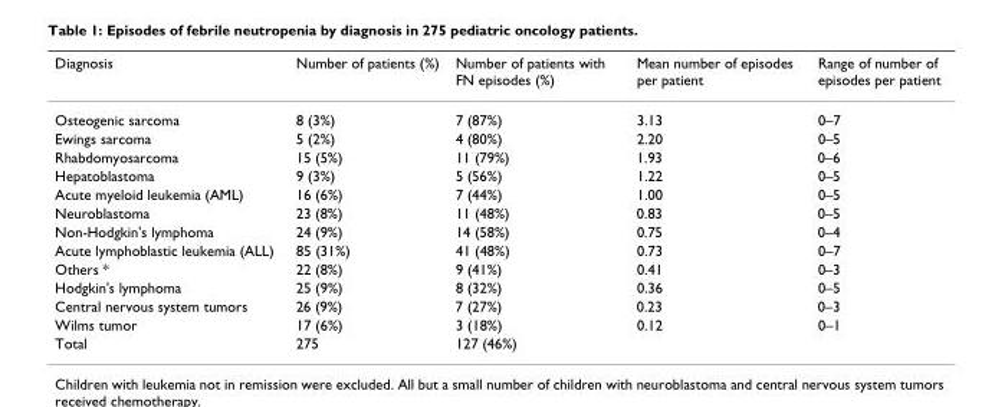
<table><thead><tr><td>Diagnosis</td><td>Number of patients (%)</td><td>Number of patients with FN episodes (%)</td><td>Mean number of episodes per patient</td><td>Range of number of episodes per patient</td></tr></thead><tbody><tr><td>Osteogenic sarcoma</td><td>8 (3%)</td><td>7 (87%)</td><td>3.13</td><td>0–7</td></tr><tr><td>Ewings sarcoma</td><td>5 (2%)</td><td>4 (80%)</td><td>2.20</td><td>0–5</td></tr><tr><td>Rhabdomyosarcoma</td><td>15 (5%)</td><td>11 (79%)</td><td>1.93</td><td>0–6</td></tr><tr><td>Hepatoblastoma</td><td>9 (3%)</td><td>5 (56%)</td><td>1.22</td><td>0–5</td></tr><tr><td>Acute myeloid leukemia (AML)</td><td>16 (6%)</td><td>7 (44%)</td><td>1.00</td><td>0–5</td></tr><tr><td>Neuroblastoma</td><td>23 (8%)</td><td>11 (48%)</td><td>0.83</td><td>0–5</td></tr><tr><td>Non-Hodgkin&#x27;s lymphoma</td><td>24 (9%)</td><td>14 (58%)</td><td>0.75</td><td>0–4</td></tr><tr><td>Acute lymphoblastic leukemia (ALL)</td><td>85 (31%)</td><td>41 (48%)</td><td>0.73</td><td>0–7</td></tr><tr><td>Others *</td><td>22 (8%)</td><td>9 (41%)</td><td>0.41</td><td>0–3</td></tr><tr><td>Hodgkin&#x27;s lymphoma</td><td>25 (9%)</td><td>8 (32%)</td><td>0.36</td><td>0–5</td></tr><tr><td>Central nervous system tumors</td><td>26 (9%)</td><td>7 (27%)</td><td>0.23</td><td>0–3</td></tr><tr><td>Wilms tumor</td><td>17 (6%)</td><td>3 (18%)</td><td>0.12</td><td>0–1</td></tr><tr><td>Total</td><td>275</td><td>127 (46%)</td><td></td><td></td></tr></tbody></table>